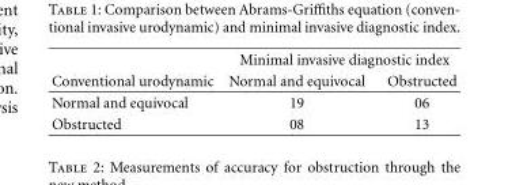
<table><thead><tr><td rowspan="2">Conventional urodynamic</td><td colspan="2">Minimal invasive diagnostic index</td></tr><tr><td>Normal and equivocal</td><td>Obstructed</td></tr></thead><tbody><tr><td>Normal and equivocal</td><td>19</td><td>06</td></tr><tr><td>Obstructed</td><td>08</td><td>13</td></tr></tbody></table>